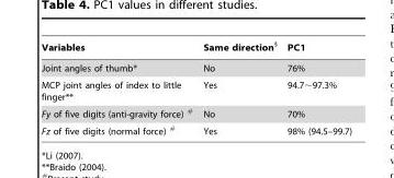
<table><thead><tr><td>Variables</td><td>Same direction§</td><td>PC1</td></tr></thead><tbody><tr><td>Joint angles of thumb*</td><td>No</td><td>76%</td></tr><tr><td>MCP joint angles of index to little finger**</td><td>Yes</td><td>94.7∼97.3%</td></tr><tr><td>Fy of five digits (anti-gravity force) #</td><td>No</td><td>70%</td></tr><tr><td>Fz of five digits (normal force) #</td><td>Yes</td><td>98% (94.5–99.7)</td></tr></tbody></table>